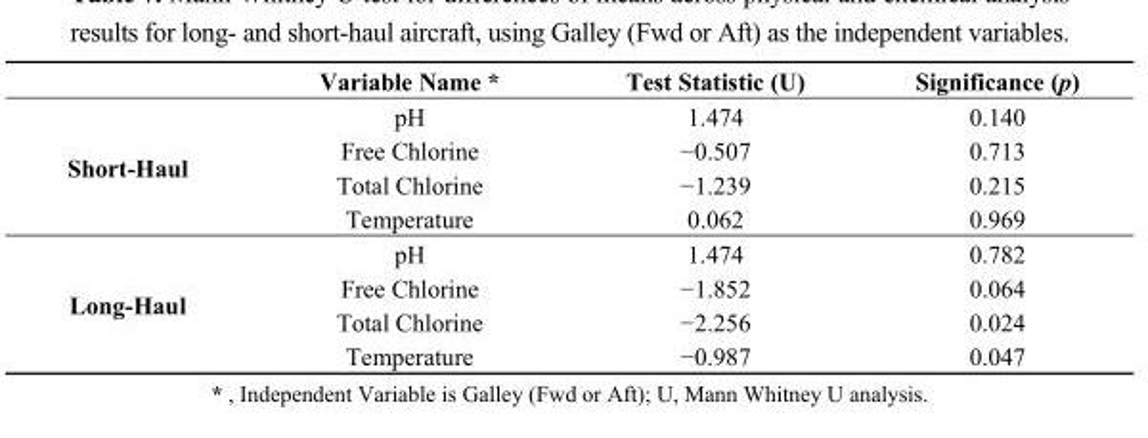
<table><thead><tr><td></td><td>Variable Name *</td><td>Test Statistic (U)</td><td>Significance (p)</td></tr></thead><tbody><tr><td rowspan="4">Short-Haul</td><td>pH</td><td>1.474</td><td>0.140</td></tr><tr><td>Free Chlorine</td><td>−0.507</td><td>0.713</td></tr><tr><td>Total Chlorine</td><td>−1.239</td><td>0.215</td></tr><tr><td>Temperature</td><td>0.062</td><td>0.969</td></tr><tr><td rowspan="4">Long-Haul</td><td>pH</td><td>1.474</td><td>0.782</td></tr><tr><td>Free Chlorine</td><td>−1.852</td><td>0.064</td></tr><tr><td>Total Chlorine</td><td>−2.256</td><td>0.024</td></tr><tr><td>Temperature</td><td>−0.987</td><td>0.047</td></tr></tbody></table>